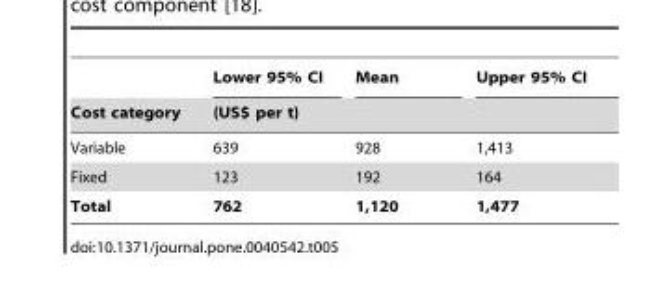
<table><thead><tr><td rowspan="2">Cost category</td><td>Lower 95% CI</td><td>Mean</td><td>Upper 95% CI</td></tr><tr><td colspan="3">(US$ per t)</td></tr></thead><tbody><tr><td>Variable</td><td>639</td><td>928</td><td>1,413</td></tr><tr><td>Fixed</td><td>123</td><td>192</td><td>164</td></tr><tr><td>Total</td><td>762</td><td>1,120</td><td>1,477</td></tr></tbody></table>